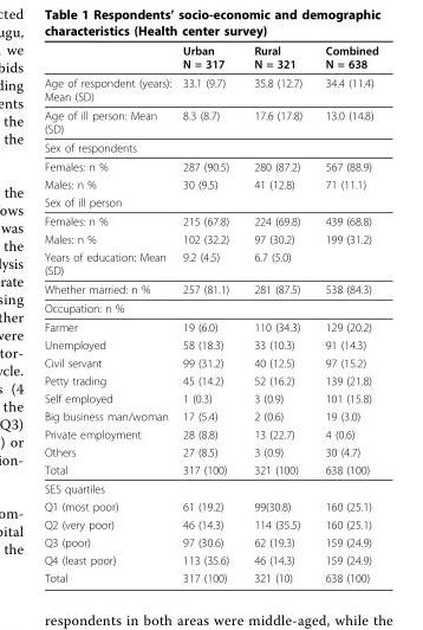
<table><thead><tr><td></td><td>Urban N = 317</td><td>Rural N = 321</td><td>Combined N = 638</td></tr></thead><tbody><tr><td>Age of respondent (years): Mean (SD)</td><td>33.1 (9.7)</td><td>35.8 (12.7)</td><td>34.4 (11.4)</td></tr><tr><td>Age of ill person: Mean (SD)</td><td>8.3 (8.7)</td><td>17.6 (17.8)</td><td>13.0 (14.8)</td></tr><tr><td colspan="4">Sex of respondents</td></tr><tr><td>Females: n %</td><td>287 (90.5)</td><td>280 (87.2)</td><td>567 (88.9)</td></tr><tr><td>Males: n %</td><td>30 (9.5)</td><td>41 (12.8)</td><td>71 (11.1)</td></tr><tr><td colspan="4">Sex of ill person</td></tr><tr><td>Females: n %</td><td>215 (67.8)</td><td>224 (69.8)</td><td>439 (68.8)</td></tr><tr><td>Males: n %</td><td>102 (32.2)</td><td>97 (30.2)</td><td>199 (31.2)</td></tr><tr><td>Years of education: Mean (SD)</td><td>9.2 (4.5)</td><td>6.7 (5.0)</td><td></td></tr><tr><td>Whether married: n %</td><td>257 (81.1)</td><td>281 (87.5)</td><td>538 (84.3)</td></tr><tr><td colspan="4">Occupation: n %</td></tr><tr><td>Farmer</td><td>19 (6.0)</td><td>110 (34.3)</td><td>129 (20.2)</td></tr><tr><td>Unemployed</td><td>58 (18.3)</td><td>33 (10.3)</td><td>91 (14.3)</td></tr><tr><td>Civil servant</td><td>99 (31.2)</td><td>40 (12.5)</td><td>97 (15.2)</td></tr><tr><td>Petty trading</td><td>45 (14.2)</td><td>52 (16.2)</td><td>139 (21.8)</td></tr><tr><td>Self employed</td><td>1 (0.3)</td><td>3 (0.9)</td><td>101 (15.8)</td></tr><tr><td>Big business man/woman</td><td>17 (5.4)</td><td>2 (0.6)</td><td>19 (3.0)</td></tr><tr><td>Private employment</td><td>28 (8.8)</td><td>13 (22.7)</td><td>4 (0.6)</td></tr><tr><td>Others</td><td>27 (8.5)</td><td>3 (0.9)</td><td>30 (4.7)</td></tr><tr><td>Total</td><td>317 (100)</td><td>321 (100)</td><td>638 (100)</td></tr><tr><td colspan="4">SES quartiles</td></tr><tr><td>Q1 (most poor)</td><td>61 (19.2)</td><td>99(30.8)</td><td>160 (25.1)</td></tr><tr><td>Q2 (very poor)</td><td>46 (14.3)</td><td>114 (35.5)</td><td>160 (25.1)</td></tr><tr><td>Q3 (poor)</td><td>97 (30.6)</td><td>62 (19.3)</td><td>159 (24.9)</td></tr><tr><td>Q4 (least poor)</td><td>113 (35.6)</td><td>46 (14.3)</td><td>159 (24.9)</td></tr><tr><td>Total</td><td>317 (100)</td><td>321 (10)</td><td>638 (100)</td></tr></tbody></table>